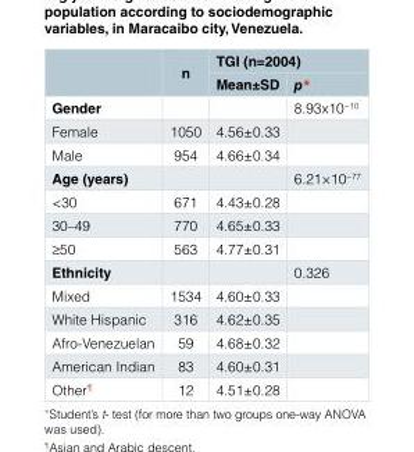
<table><thead><tr><td rowspan="2"></td><td rowspan="2">n</td><td colspan="2">TGI (n=2004)</td></tr><tr><td>Mean±SD</td><td>p*</td></tr></thead><tbody><tr><td>Gender</td><td></td><td></td><td>8.93x10−10</td></tr><tr><td>Female</td><td>1050</td><td>4.56±0.33</td><td></td></tr><tr><td>Male</td><td>954</td><td>4.66±0.34</td><td></td></tr><tr><td>Age (years)</td><td></td><td></td><td>6.21×10<sup>−77</sup></td></tr><tr><td>&lt;30</td><td>671</td><td>4.43±0.28</td><td></td></tr><tr><td>30–49</td><td>770</td><td>4.65±0.33</td><td></td></tr><tr><td>≥50</td><td>563</td><td>4.77±0.31</td><td></td></tr><tr><td>Ethnicity</td><td></td><td></td><td>0.326</td></tr><tr><td>Mixed</td><td>1534</td><td>4.60±0.33</td><td></td></tr><tr><td>White Hispanic</td><td>316</td><td>4.62±0.35</td><td></td></tr><tr><td>Afro-Venezuelan</td><td>59</td><td>4.68±0.32</td><td></td></tr><tr><td>American Indian</td><td>83</td><td>4.60±0.31</td><td></td></tr><tr><td>Other<sup>¶</sup></td><td>12</td><td>4.51±0.28</td><td></td></tr></tbody></table>